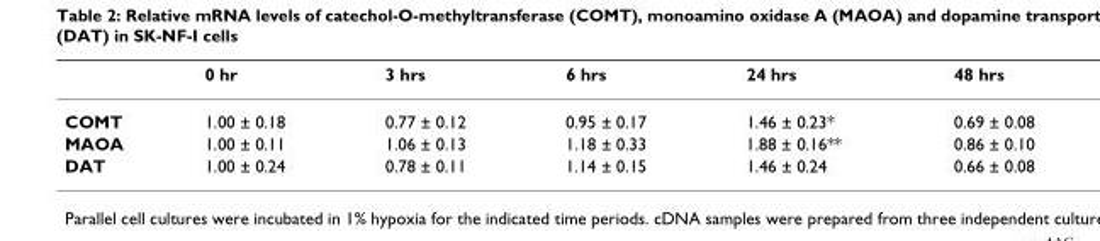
<table><thead><tr><td></td><td>0 hr</td><td>3 hrs</td><td>6 hrs</td><td>24 hrs</td><td>48 hrs</td></tr></thead><tbody><tr><td>COMT</td><td>1.00 ± 0.18</td><td>0.77 ± 0.12</td><td>0.95 ± 0.17</td><td>1.46 ± 0.23*</td><td>0.69 ± 0.08</td></tr><tr><td>MAOA</td><td>1.00 ± 0.11</td><td>1.06 ± 0.13</td><td>1.18 ± 0.33</td><td>1.88 ± 0.16**</td><td>0.86 ± 0.10</td></tr><tr><td>DAT</td><td>1.00 ± 0.24</td><td>0.78 ± 0.11</td><td>1.14 ± 0.15</td><td>1.46 ± 0.24</td><td>0.66 ± 0.08</td></tr></tbody></table>